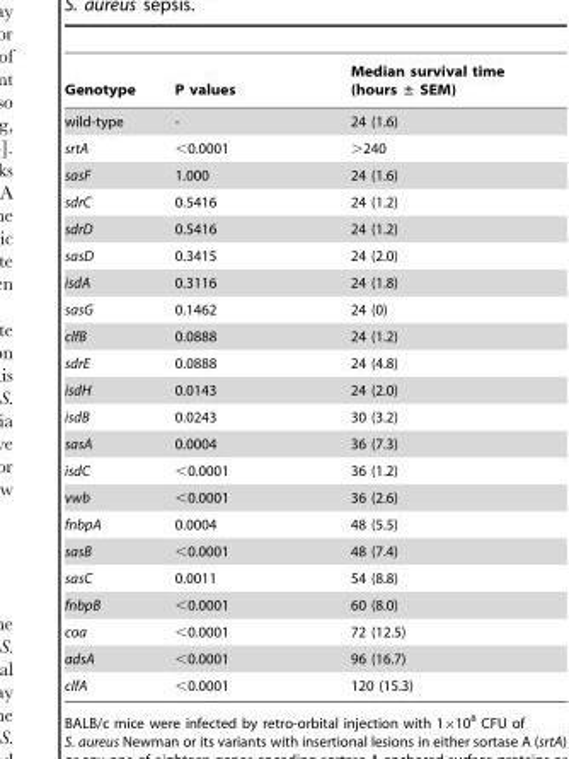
<table><thead><tr><td>Genotype</td><td>P values</td><td>Median survival time (hours ± SEM)</td></tr></thead><tbody><tr><td>wild-type</td><td>-</td><td>24 (1.6)</td></tr><tr><td>srtA</td><td>&lt;0.0001</td><td>&gt;240</td></tr><tr><td>sasF</td><td>1.000</td><td>24 (1.6)</td></tr><tr><td>sdrC</td><td>0.5416</td><td>24 (1.2)</td></tr><tr><td>sdrD</td><td>0.5416</td><td>24 (1.2)</td></tr><tr><td>sasD</td><td>0.3415</td><td>24 (2.0)</td></tr><tr><td>isdA</td><td>0.3116</td><td>24 (1.8)</td></tr><tr><td>sasG</td><td>0.1462</td><td>24 (0)</td></tr><tr><td>clfB</td><td>0.0888</td><td>24 (1.2)</td></tr><tr><td>sdrE</td><td>0.0888</td><td>24 (4.8)</td></tr><tr><td>isdH</td><td>0.0143</td><td>24 (2.0)</td></tr><tr><td>isdB</td><td>0.0243</td><td>30 (3.2)</td></tr><tr><td>sasA</td><td>0.0004</td><td>36 (7.3)</td></tr><tr><td>isdC</td><td>&lt;0.0001</td><td>36 (1.2)</td></tr><tr><td>vwb</td><td>&lt;0.0001</td><td>36 (2.6)</td></tr><tr><td>fnbpA</td><td>0.0004</td><td>48 (5.5)</td></tr><tr><td>sasB</td><td>&lt;0.0001</td><td>48 (7.4)</td></tr><tr><td>sasC</td><td>0.0011</td><td>54 (8.8)</td></tr><tr><td>fnbpB</td><td>&lt;0.0001</td><td>60 (8.0)</td></tr><tr><td>coa</td><td>&lt;0.0001</td><td>72 (12.5)</td></tr><tr><td>adsA</td><td>&lt;0.0001</td><td>96 (16.7)</td></tr><tr><td>clfA</td><td>&lt;0.0001</td><td>120 (15.3)</td></tr></tbody></table>